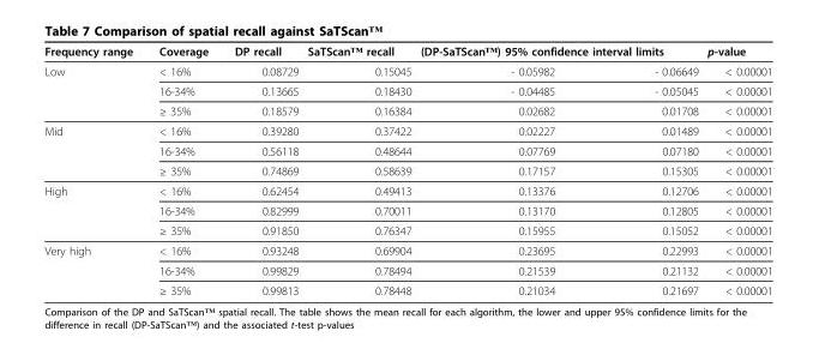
<table><thead><tr><td rowspan="2">Frequency range Low</td><td rowspan="2">Coverage &lt; 16%</td><td rowspan="2">DP recall 0.08729</td><td rowspan="2">SaTScan™ recall 0.15045</td><td colspan="2">(DP-SaTScan™) 95% confidence interval limits</td><td rowspan="2">p-value &lt; 0.00001</td></tr><tr><td>- 0.05982</td><td>- 0.06649</td></tr></thead><tbody><tr><td></td><td>16-34%</td><td>0.13665</td><td>0.18430</td><td>- 0.04485</td><td>- 0.05045</td><td>&lt; 0.00001</td></tr><tr><td></td><td>≥ 35%</td><td>0.18579</td><td>0.16384</td><td>0.02682</td><td>0.01708</td><td>&lt; 0.00001</td></tr><tr><td rowspan="3">Mid</td><td>&lt; 16%</td><td>0.39280</td><td>0.37422</td><td>0.02227</td><td>0.01489</td><td>&lt; 0.00001</td></tr><tr><td>16-34%</td><td>0.56118</td><td>0.48644</td><td>0.07769</td><td>0.07180</td><td>&lt; 0.00001</td></tr><tr><td>≥ 35%</td><td>0.74869</td><td>0.58639</td><td>0.17157</td><td>0.15305</td><td>&lt; 0.00001</td></tr><tr><td rowspan="3">High</td><td>&lt; 16%</td><td>0.62454</td><td>0.49413</td><td>0.13376</td><td>0.12706</td><td>&lt; 0.00001</td></tr><tr><td>16-34%</td><td>0.82999</td><td>0.70011</td><td>0.13170</td><td>0.12805</td><td>&lt; 0.00001</td></tr><tr><td>≥ 35%</td><td>0.91850</td><td>0.76347</td><td>0.15955</td><td>0.15052</td><td>&lt; 0.00001</td></tr><tr><td rowspan="3">Very high</td><td>&lt; 16%</td><td>0.93248</td><td>0.69904</td><td>0.23695</td><td>0.22993</td><td>&lt; 0.00001</td></tr><tr><td>16-34%</td><td>0.99829</td><td>0.78494</td><td>0.21539</td><td>0.21132</td><td>&lt; 0.00001</td></tr><tr><td>≥ 35%</td><td>0.99813</td><td>0.78448</td><td>0.21034</td><td>0.21697</td><td>&lt; 0.00001</td></tr></tbody></table>